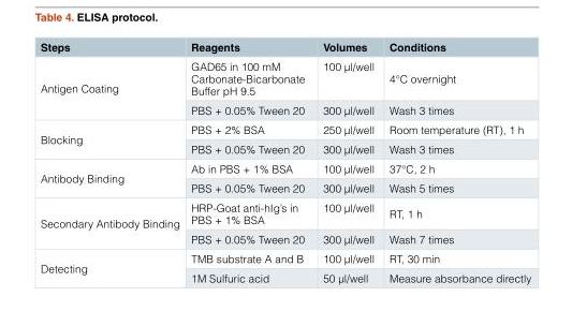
<table><thead><tr><td>Steps</td><td>Reagents</td><td>Volumes</td><td>Conditions</td></tr></thead><tbody><tr><td rowspan="2">Antigen Coating</td><td>GAD65 in 100 mM Carbonate-Bicarbonate Buffer pH 9.5</td><td>100 μl/well</td><td>4°C overnight</td></tr><tr><td>PBS + 0.05% Tween 20</td><td>300 μl/well</td><td>Wash 3 times</td></tr><tr><td rowspan="2">Blocking</td><td>PBS + 2% BSA</td><td>250 μl/well</td><td>Room temperature (RT), 1 h</td></tr><tr><td>PBS + 0.05% Tween 20</td><td>300 μl/well</td><td>Wash 3 times</td></tr><tr><td rowspan="2">Antibody Binding</td><td>Ab in PBS + 1% BSA</td><td>100 μl/well</td><td>37°C, 2 h</td></tr><tr><td>PBS + 0.05% Tween 20</td><td>300 μl/well</td><td>Wash 5 times</td></tr><tr><td rowspan="2">Secondary Antibody Binding</td><td>HRP-Goat anti-hIg’s in PBS + 1% BSA</td><td>100 μl/well</td><td>RT, 1 h</td></tr><tr><td>PBS + 0.05% Tween 20</td><td>300 μl/well</td><td>Wash 7 times</td></tr><tr><td rowspan="2">Detecting</td><td>TMB substrate A and B</td><td>100 μl/well</td><td>RT, 30 min</td></tr><tr><td>1M Sulfuric acid</td><td>50 μl/well</td><td>Measure absorbance directly</td></tr></tbody></table>